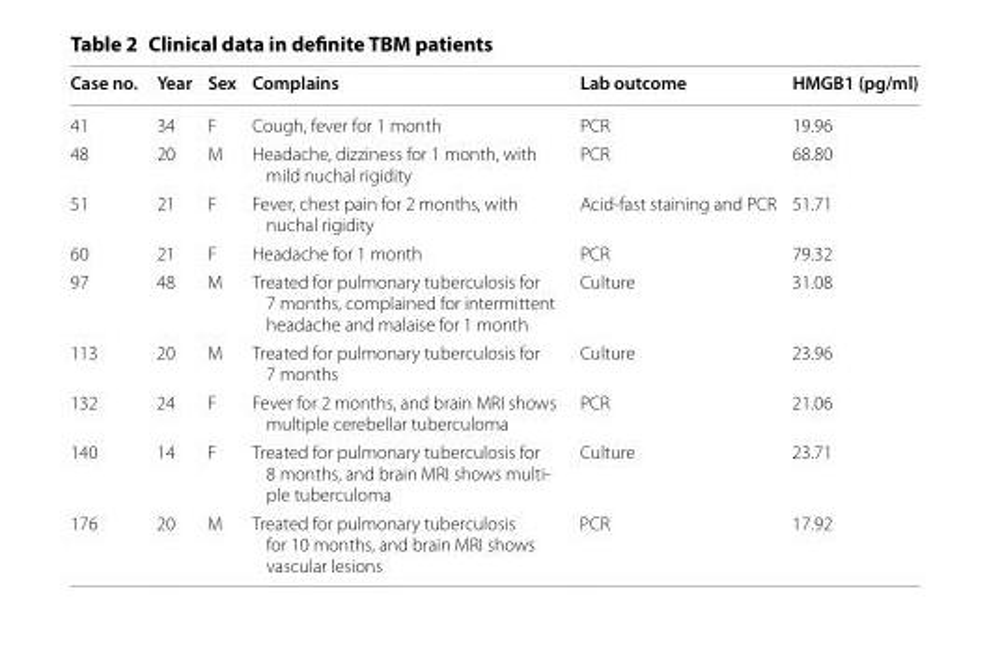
<table><thead><tr><td>Case no.</td><td>Year</td><td>Sex</td><td>Complains</td><td>Lab outcome</td><td>HMGB1 (pg/ml)</td></tr></thead><tbody><tr><td>41</td><td>34</td><td>F</td><td>Cough, fever for 1 month</td><td>PCR</td><td>19.96</td></tr><tr><td>48</td><td>20</td><td>M</td><td>Headache, dizziness for 1 month, with mild nuchal rigidity</td><td>PCR</td><td>68.80</td></tr><tr><td>51</td><td>21</td><td>F</td><td>Fever, chest pain for 2 months, with nuchal rigidity</td><td>Acid-fast staining and PCR</td><td>51.71</td></tr><tr><td>60</td><td>21</td><td>F</td><td>Headache for 1 month</td><td>PCR</td><td>79.32</td></tr><tr><td>97</td><td>48</td><td>M</td><td>Treated for pulmonary tuberculosis for 7 months, complained for intermittent headache and malaise for 1 month</td><td>Culture</td><td>31.08</td></tr><tr><td>113</td><td>20</td><td>M</td><td>Treated for pulmonary tuberculosis for 7 months</td><td>Culture</td><td>23.96</td></tr><tr><td>132</td><td>24</td><td>F</td><td>Fever for 2 months, and brain MRI shows multiple cerebellar tuberculoma</td><td>PCR</td><td>21.06</td></tr><tr><td>140</td><td>14</td><td>F</td><td>Treated for pulmonary tuberculosis for 8 months, and brain MRI shows multi- ple tuberculoma</td><td>Culture</td><td>23.71</td></tr><tr><td>176</td><td>20</td><td>M</td><td>Treated for pulmonary tuberculosis for 10 months, and brain MRI shows vascular lesions</td><td>PCR</td><td>17.92</td></tr></tbody></table>